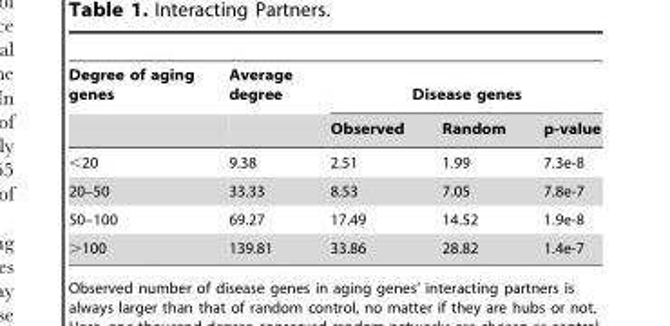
<table><thead><tr><td rowspan="2">Degree of aging genes</td><td rowspan="2">Average degree</td><td colspan="3">Disease genes</td></tr><tr><td>Observed</td><td>Random</td><td>p-value</td></tr></thead><tbody><tr><td>&lt;20</td><td>9.38</td><td>2.51</td><td>1.99</td><td>7.3e-8</td></tr><tr><td>20–50</td><td>33.33</td><td>8.53</td><td>7.05</td><td>7.8e-7</td></tr><tr><td>50–100</td><td>69.27</td><td>17.49</td><td>14.52</td><td>1.9e-8</td></tr><tr><td>&gt;100</td><td>139.81</td><td>33.86</td><td>28.82</td><td>1.4e-7</td></tr></tbody></table>